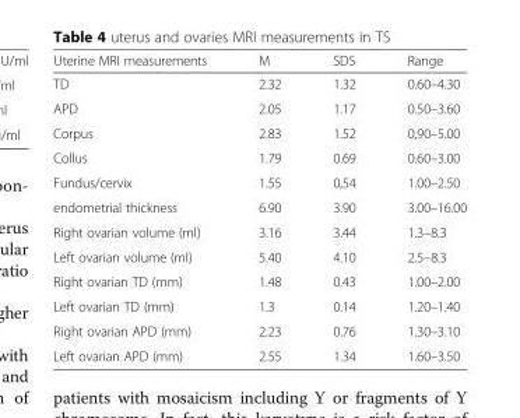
<table><thead><tr><td>Uterine MRI measurements</td><td>M</td><td>SDS</td><td>Range</td></tr></thead><tbody><tr><td>TD</td><td>2.32</td><td>1.32</td><td>0.60–4.30</td></tr><tr><td>APD</td><td>2.05</td><td>1.17</td><td>0.50–3.60</td></tr><tr><td>Corpus</td><td>2.83</td><td>1.52</td><td>0,90–5.00</td></tr><tr><td>Collus</td><td>1.79</td><td>0.69</td><td>0.60–3.00</td></tr><tr><td>Fundus/cervix</td><td>1.55</td><td>0,54</td><td>1.00–2.50</td></tr><tr><td>endometrial thickness</td><td>6.90</td><td>3.90</td><td>3.00–16.00</td></tr><tr><td>Right ovarian volume (ml)</td><td>3.16</td><td>3.44</td><td>1.3–8.3</td></tr><tr><td>Left ovarian volume (ml)</td><td>5.40</td><td>4.10</td><td>2.5–8.3</td></tr><tr><td>Right ovarian TD (mm)</td><td>1.48</td><td>0.43</td><td>1.00–2.00</td></tr><tr><td>Left ovarian TD (mm)</td><td>1.3</td><td>0.14</td><td>1.20–1.40</td></tr><tr><td>Right ovarian APD (mm)</td><td>2.23</td><td>0.76</td><td>1.30–3.10</td></tr><tr><td>Left ovarian APD (mm)</td><td>2.55</td><td>1.34</td><td>1.60–3.50</td></tr></tbody></table>